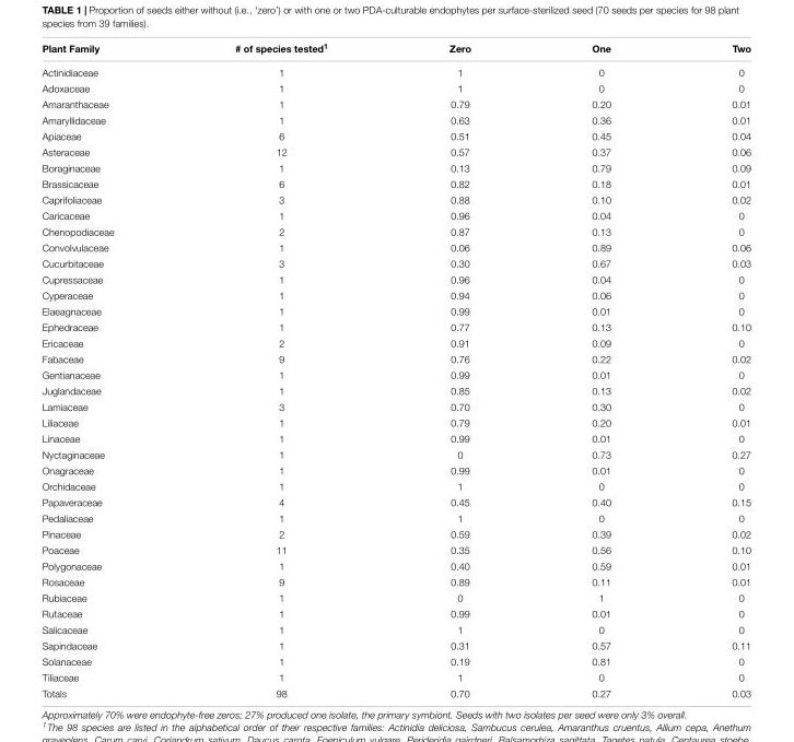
<table><thead><tr><td>Plant Family</td><td># of species tested<sup>1</sup></td><td>Zero</td><td>One</td><td>Two</td></tr></thead><tbody><tr><td>Actinidiaceae</td><td>1</td><td>1</td><td>0</td><td>0</td></tr><tr><td>Adoxaceae</td><td>1</td><td>1</td><td>0</td><td>0</td></tr><tr><td>Amaranthaceae</td><td>1</td><td>0.79</td><td>0.20</td><td>0.01</td></tr><tr><td>Amaryllidaceae</td><td>1</td><td>0.63</td><td>0.36</td><td>0.01</td></tr><tr><td>Apiaceae</td><td>6</td><td>0.51</td><td>0.45</td><td>0.04</td></tr><tr><td>Asteraceae</td><td>12</td><td>0.57</td><td>0.37</td><td>0.06</td></tr><tr><td>Boraginaceae</td><td>1</td><td>0.13</td><td>0.79</td><td>0.09</td></tr><tr><td>Brassicaceae</td><td>6</td><td>0.82</td><td>0.18</td><td>0.01</td></tr><tr><td>Caprifoliaceae</td><td>3</td><td>0.88</td><td>0.10</td><td>0.02</td></tr><tr><td>Caricaceae</td><td>1</td><td>0.96</td><td>0.04</td><td>0</td></tr><tr><td>Chenopodiaceae</td><td>2</td><td>0.87</td><td>0.13</td><td>0</td></tr><tr><td>Convolvulaceae</td><td>1</td><td>0.06</td><td>0.89</td><td>0.06</td></tr><tr><td>Cucurbitaceae</td><td>3</td><td>0.30</td><td>0.67</td><td>0.03</td></tr><tr><td>Cupressaceae</td><td>1</td><td>0.96</td><td>0.04</td><td>0</td></tr><tr><td>Cyperaceae</td><td>1</td><td>0.94</td><td>0.06</td><td>0</td></tr><tr><td>Elaeagnaceae</td><td>1</td><td>0.99</td><td>0.01</td><td>0</td></tr><tr><td>Ephedraceae</td><td>1</td><td>0.77</td><td>0.13</td><td>0.10</td></tr><tr><td>Ericaceae</td><td>2</td><td>0.91</td><td>0.09</td><td>0</td></tr><tr><td>Fabaceae</td><td>9</td><td>0.76</td><td>0.22</td><td>0.02</td></tr><tr><td>Gentianaceae</td><td>1</td><td>0.99</td><td>0.01</td><td>0</td></tr><tr><td>Juglandaceae</td><td>1</td><td>0.85</td><td>0.13</td><td>0.02</td></tr><tr><td>Lamiaceae</td><td>3</td><td>0.70</td><td>0.30</td><td>0</td></tr><tr><td>Liliaceae</td><td>1</td><td>0.79</td><td>0.20</td><td>0.01</td></tr><tr><td>Linaceae</td><td>1</td><td>0.99</td><td>0.01</td><td>0</td></tr><tr><td>Nyctaginaceae</td><td>1</td><td>0</td><td>0.73</td><td>0.27</td></tr><tr><td>Onagraceae</td><td>1</td><td>0.99</td><td>0.01</td><td>0</td></tr><tr><td>Orchidaceae</td><td>1</td><td>1</td><td>0</td><td>0</td></tr><tr><td>Papaveraceae</td><td>4</td><td>0.45</td><td>0.40</td><td>0.15</td></tr><tr><td>Pedaliaceae</td><td>1</td><td>1</td><td>0</td><td>0</td></tr><tr><td>Pinaceae</td><td>2</td><td>0.59</td><td>0.39</td><td>0.02</td></tr><tr><td>Poaceae</td><td>11</td><td>0.35</td><td>0.56</td><td>0.10</td></tr><tr><td>Polygonaceae</td><td>1</td><td>0.40</td><td>0.59</td><td>0.01</td></tr><tr><td>Rosaceae</td><td>9</td><td>0.89</td><td>0.11</td><td>0.01</td></tr><tr><td>Rubiaceae</td><td>1</td><td>0</td><td>1</td><td>0</td></tr><tr><td>Rutaceae</td><td>1</td><td>0.99</td><td>0.01</td><td>0</td></tr><tr><td>Salicaceae</td><td>1</td><td>1</td><td>0</td><td>0</td></tr><tr><td>Sapindaceae</td><td>1</td><td>0.31</td><td>0.57</td><td>0.11</td></tr><tr><td>Solanaceae</td><td>1</td><td>0.19</td><td>0.81</td><td>0</td></tr><tr><td>Tiliaceae</td><td>1</td><td>1</td><td>0</td><td>0</td></tr><tr><td>Totals</td><td>98</td><td>0.70</td><td>0.27</td><td>0.03</td></tr></tbody></table>